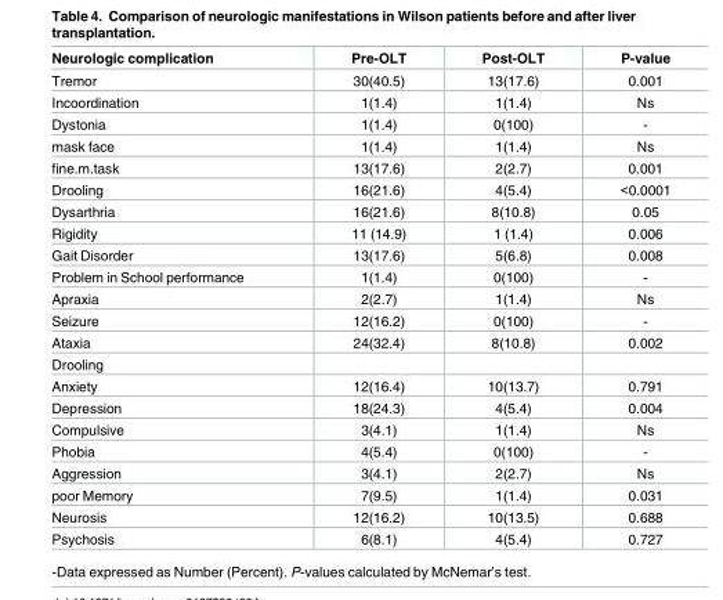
<table><thead><tr><td>Neurologic complication</td><td>Pre-OLT</td><td>Post-OLT</td><td>P-value</td></tr></thead><tbody><tr><td>Tremor</td><td>30(40.5)</td><td>13(17.6)</td><td>0.001</td></tr><tr><td>Incoordination</td><td>1(1.4)</td><td>1(1.4)</td><td>Ns</td></tr><tr><td>Dystonia</td><td>1(1.4)</td><td>0(100)</td><td>-</td></tr><tr><td>mask face</td><td>1(1.4)</td><td>1(1.4)</td><td>Ns</td></tr><tr><td>fine.m.task</td><td>13(17.6)</td><td>2(2.7)</td><td>0.001</td></tr><tr><td>Drooling</td><td>16(21.6)</td><td>4(5.4)</td><td>&lt;0.0001</td></tr><tr><td>Dysarthria</td><td>16(21.6)</td><td>8(10.8)</td><td>0.05</td></tr><tr><td>Rigidity</td><td>11 (14.9)</td><td>1 (1.4)</td><td>0.006</td></tr><tr><td>Gait Disorder</td><td>13(17.6)</td><td>5(6.8)</td><td>0.008</td></tr><tr><td>Problem in School performance</td><td>1(1.4)</td><td>0(100)</td><td>-</td></tr><tr><td>Apraxia</td><td>2(2.7)</td><td>1(1.4)</td><td>Ns</td></tr><tr><td>Seizure</td><td>12(16.2)</td><td>0(100)</td><td>-</td></tr><tr><td>Ataxia</td><td>24(32.4)</td><td>8(10.8)</td><td>0.002</td></tr><tr><td colspan="4">Drooling</td></tr><tr><td>Anxiety</td><td>12(16.4)</td><td>10(13.7)</td><td>0.791</td></tr><tr><td>Depression</td><td>18(24.3)</td><td>4(5.4)</td><td>0.004</td></tr><tr><td>Compulsive</td><td>3(4.1)</td><td>1(1.4)</td><td>Ns</td></tr><tr><td>Phobia</td><td>4(5.4)</td><td>0(100)</td><td>-</td></tr><tr><td>Aggression</td><td>3(4.1)</td><td>2(2.7)</td><td>Ns</td></tr><tr><td>poor Memory</td><td>7(9.5)</td><td>1(1.4)</td><td>0.031</td></tr><tr><td>Neurosis</td><td>12(16.2)</td><td>10(13.5)</td><td>0.688</td></tr><tr><td>Psychosis</td><td>6(8.1)</td><td>4(5.4)</td><td>0.727</td></tr></tbody></table>